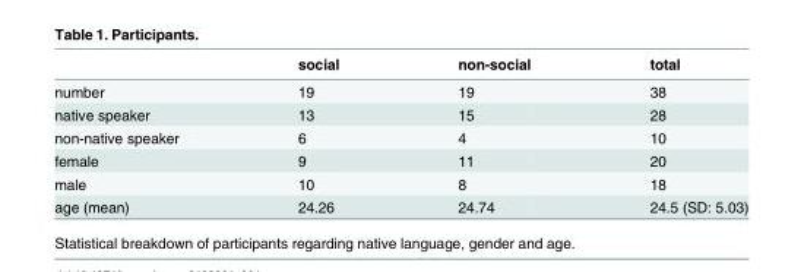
<table><thead><tr><td></td><td>social</td><td>non-social</td><td>total</td></tr></thead><tbody><tr><td>number</td><td>19</td><td>19</td><td>38</td></tr><tr><td>native speaker</td><td>13</td><td>15</td><td>28</td></tr><tr><td>non-native speaker</td><td>6</td><td>4</td><td>10</td></tr><tr><td>female</td><td>9</td><td>11</td><td>20</td></tr><tr><td>male</td><td>10</td><td>8</td><td>18</td></tr><tr><td>age (mean)</td><td>24.26</td><td>24.74</td><td>24.5 (SD: 5.03)</td></tr></tbody></table>